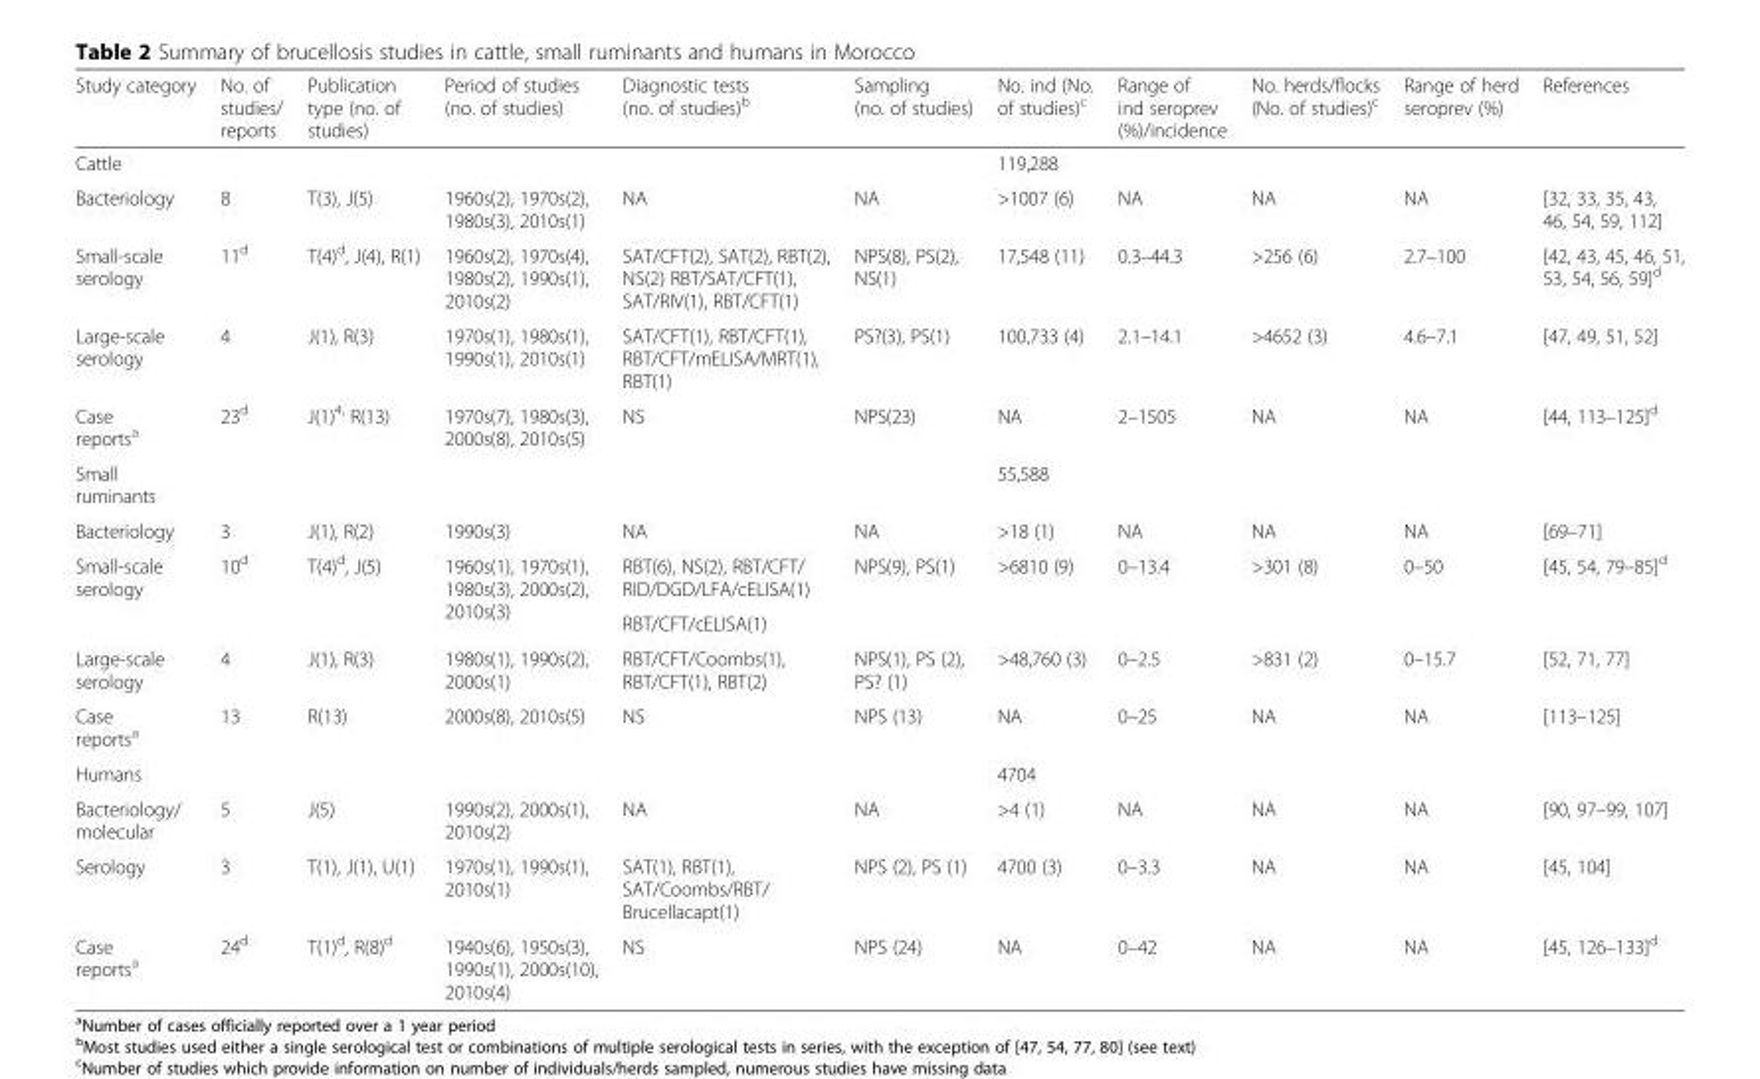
<table><thead><tr><td>Study category</td><td>No. of studies/ reports</td><td>Publication type (no. of studies)</td><td>Period of studies (no. of studies)</td><td>Diagnostic tests (no. of studies)<sup>b</sup></td><td>Sampling (no. of studies)</td><td>No. ind (No. of studies)<sup>c</sup></td><td>Range of ind seroprev (%)/incidence</td><td>No. herds/flocks (No. of studies)<sup>c</sup></td><td>Range of herd seroprev (%)</td><td>References</td></tr></thead><tbody><tr><td>Cattle</td><td></td><td></td><td></td><td></td><td></td><td>119,288</td><td></td><td></td><td></td><td></td></tr><tr><td>Bacteriology</td><td>8</td><td>T(3), J(5)</td><td>1960s(2), 1970s(2), 1980s(3), 2010s(1)</td><td>NA</td><td>NA</td><td>&gt;1007 (6)</td><td>NA</td><td>NA</td><td>NA</td><td>[32, 33, 35, 43, 46, 54, 59, 112]</td></tr><tr><td>Small-scale serology</td><td>11<sup>d</sup></td><td>T(4)<sup>d</sup>, J(4), R(1)</td><td>1960s(2), 1970s(4), 1980s(2), 1990s(1), 2010s(2)</td><td>SAT/CFT(2), SAT(2), RBT(2), NS(2) RBT/SAT/CFT(1), SAT/RIV(1), RBT/CFT(1)</td><td>NPS(8), PS(2), NS(1)</td><td>17,548 (11)</td><td>0.3–44.3</td><td>&gt;256 (6)</td><td>2.7–100</td><td>[42, 43, 45, 46, 51, 53, 54, 56, 59]<sup>d</sup></td></tr><tr><td>Large-scale serology</td><td>4</td><td>J(1), R(3)</td><td>1970s(1), 1980s(1), 1990s(1), 2010s(1)</td><td>SAT/CFT(1), RBT/CFT(1), RBT/CFT/mELISA/MRT(1), RBT(1)</td><td>PS?(3), PS(1)</td><td>100,733 (4)</td><td>2.1–14.1</td><td>&gt;4652 (3)</td><td>4.6–7.1</td><td>[47, 49, 51, 52]</td></tr><tr><td>Case reports<sup>a</sup></td><td>23<sup>d</sup></td><td>J(1)<sup>4,</sup> R(13)</td><td>1970s(7), 1980s(3), 2000s(8), 2010s(5)</td><td>NS</td><td>NPS(23)</td><td>NA</td><td>2–1505</td><td>NA</td><td>NA</td><td>[44, 113–125]<sup>d</sup></td></tr><tr><td>Small ruminants</td><td></td><td></td><td></td><td></td><td></td><td>55,588</td><td></td><td></td><td></td><td></td></tr><tr><td>Bacteriology</td><td>3</td><td>J(1), R(2)</td><td>1990s(3)</td><td>NA</td><td>NA</td><td>&gt;18 (1)</td><td>NA</td><td>NA</td><td>NA</td><td>[69–71]</td></tr><tr><td rowspan="2">Small-scale serology</td><td rowspan="2">10<sup>d</sup></td><td rowspan="2">T(4)<sup>d</sup>, J(5)</td><td rowspan="2">1960s(1), 1970s(1), 1980s(3), 2000s(2), 2010s(3)</td><td>RBT(6), NS(2), RBT/CFT/ RID/DGD/LFA/cELISA(1)</td><td rowspan="2">NPS(9), PS(1)</td><td rowspan="2">&gt;6810 (9)</td><td rowspan="2">0–13.4</td><td rowspan="2">&gt;301 (8)</td><td rowspan="2">0–50</td><td rowspan="2">[45, 54, 79–85]<sup>d</sup></td></tr><tr><td>RBT/CFT/cELISA(1)</td></tr><tr><td>Large-scale serology</td><td>4</td><td>J(1), R(3)</td><td>1980s(1), 1990s(2), 2000s(1)</td><td>RBT/CFT/Coombs(1), RBT/CFT(1), RBT(2)</td><td>NPS(1), PS (2), PS? (1)</td><td>&gt;48,760 (3)</td><td>0–2.5</td><td>&gt;831 (2)</td><td>0–15.7</td><td>[52, 71, 77]</td></tr><tr><td>Case reports<sup>a</sup></td><td>13</td><td>R(13)</td><td>2000s(8), 2010s(5)</td><td>NS</td><td>NPS (13)</td><td>NA</td><td>0–25</td><td>NA</td><td>NA</td><td>[113–125]</td></tr><tr><td>Humans</td><td></td><td></td><td></td><td></td><td></td><td>4704</td><td></td><td></td><td></td><td></td></tr><tr><td>Bacteriology/ molecular</td><td>5</td><td>J(5)</td><td>1990s(2), 2000s(1), 2010s(2)</td><td>NA</td><td>NA</td><td>&gt;4 (1)</td><td>NA</td><td>NA</td><td>NA</td><td>[90, 97–99, 107]</td></tr><tr><td>Serology</td><td>3</td><td>T(1), J(1), U(1)</td><td>1970s(1), 1990s(1), 2010s(1)</td><td>SAT(1), RBT(1), SAT/Coombs/RBT/ Brucellacapt(1)</td><td>NPS (2), PS (1)</td><td>4700 (3)</td><td>0–3.3</td><td>NA</td><td>NA</td><td>[45, 104]</td></tr><tr><td>Case reports<sup>a</sup></td><td>24<sup>d</sup></td><td>T(1)<sup>d</sup>, R(8)<sup>d</sup></td><td>1940s(6), 1950s(3), 1990s(1), 2000s(10), 2010s(4)</td><td>NS</td><td>NPS (24)</td><td>NA</td><td>0–42</td><td>NA</td><td>NA</td><td>[45, 126–133]<sup>d</sup></td></tr></tbody></table>